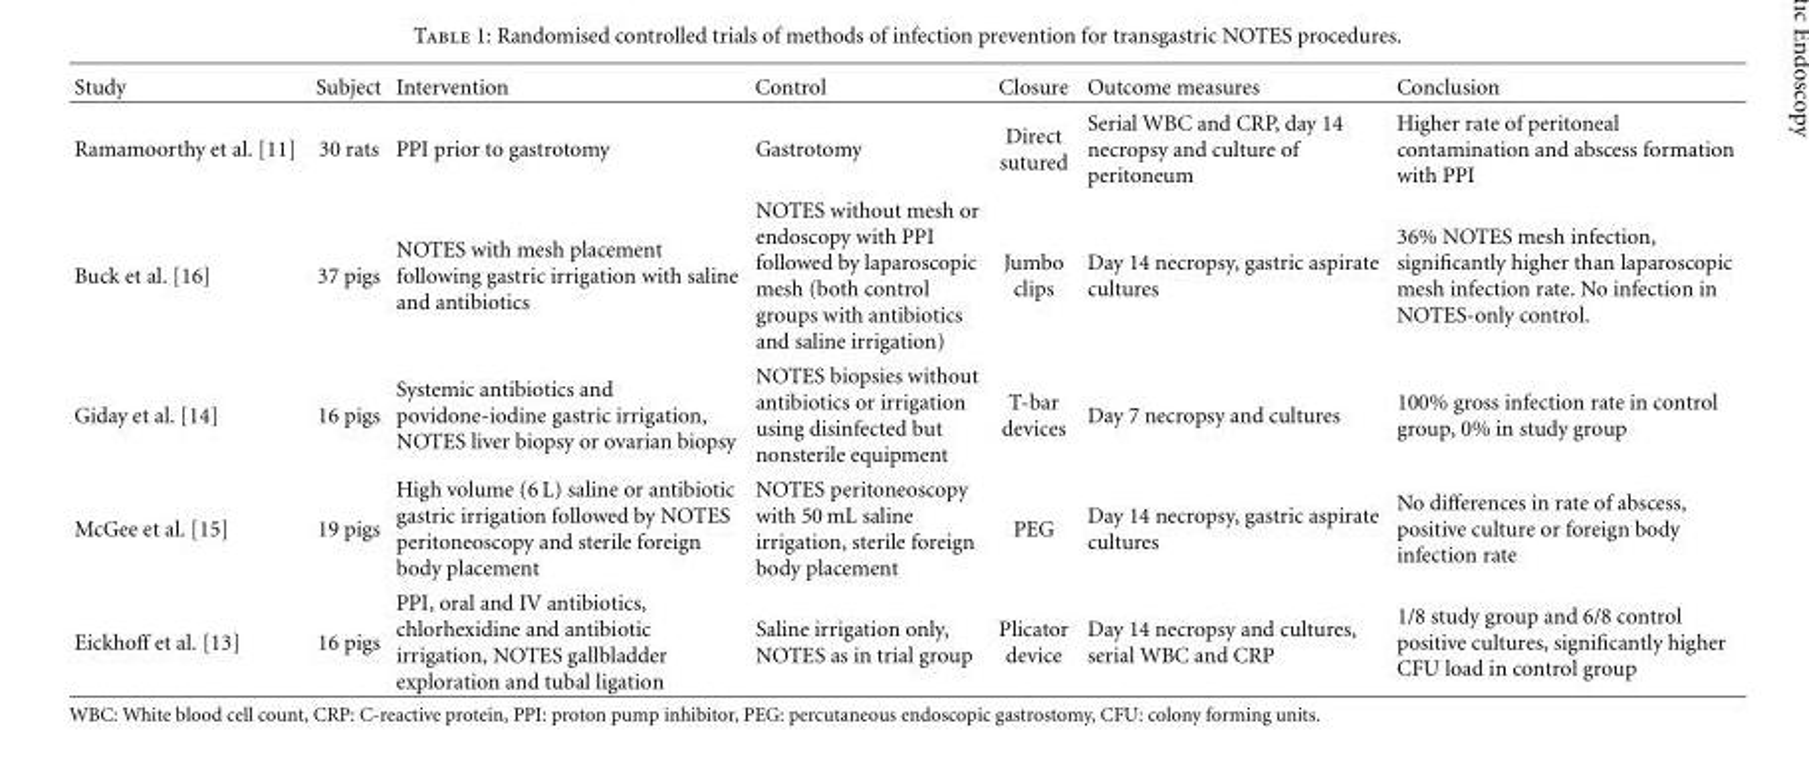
<table><thead><tr><td>Study</td><td>Subject</td><td>Intervention</td><td>Control</td><td>Closure</td><td>Outcome measures</td><td>Conclusion</td></tr></thead><tbody><tr><td>Ramamoorthy et al. [11]</td><td>30 rats</td><td>PPI prior to gastrotomy</td><td>Gastrotomy</td><td>Direct sutured</td><td>Serial WBC and CRP, day 14 necropsy and culture of peritoneum</td><td>Higher rate of peritoneal contamination and abscess formation with PPI</td></tr><tr><td>Buck et al. [16]</td><td>37 pigs</td><td>NOTES with mesh placement following gastric irrigation with saline and antibiotics</td><td>NOTES without mesh or endoscopy with PPI followed by laparoscopic mesh (both control groups with antibiotics and saline irrigation)</td><td>Jumbo clips</td><td>Day 14 necropsy, gastric aspirate cultures</td><td>36% NOTES mesh infection, significantly higher than laparoscopic mesh infection rate. No infection in NOTES-only control.</td></tr><tr><td>Giday et al. [14]</td><td>16 pigs</td><td>Systemic antibiotics and povidone-iodine gastric irrigation, NOTES liver biopsy or ovarian biopsy</td><td>NOTES biopsies without antibiotics or irrigation using disinfected but nonsterile equipment</td><td>T-bar devices</td><td>Day 7 necropsy and cultures</td><td>100% gross infection rate in control group, 0% in study group</td></tr><tr><td>McGee et al. [15]</td><td>19 pigs</td><td>High volume (6 L) saline or antibiotic gastric irrigation followed by NOTES peritoneoscopy and sterile foreign body placement</td><td>NOTES peritoneoscopy with 50 mL saline irrigation, sterile foreign body placement</td><td>PEG</td><td>Day 14 necropsy, gastric aspirate cultures</td><td>No differences in rate of abscess, positive culture or foreign body infection rate</td></tr><tr><td>Eickhoff et al. [13]</td><td>16 pigs</td><td>PPI, oral and IV antibiotics, chlorhexidine and antibiotic irrigation, NOTES gallbladder exploration and tubal ligation</td><td>Saline irrigation only, NOTES as in trial group</td><td>Plicator device</td><td>Day 14 necropsy and cultures, serial WBC and CRP</td><td>1/8 study group and 6/8 control positive cultures, significantly higher CFU load in control group</td></tr></tbody></table>